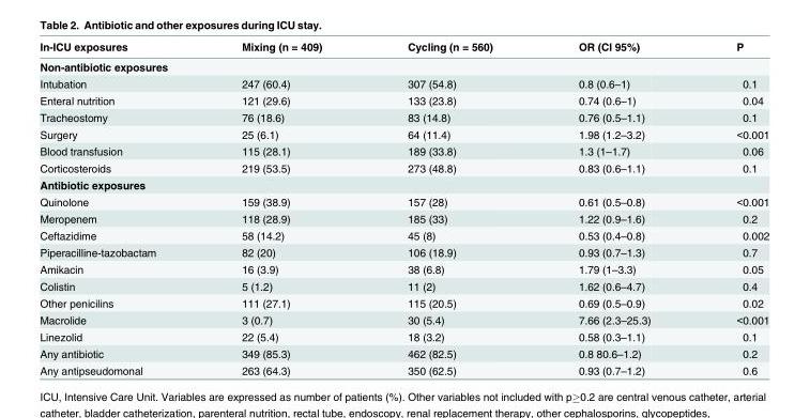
<table><thead><tr><td>In-ICU exposures</td><td>Mixing (n = 409)</td><td>Cycling (n = 560)</td><td>OR (CI 95%)</td><td>P</td></tr></thead><tbody><tr><td colspan="5">Non-antibiotic exposures</td></tr><tr><td>Intubation</td><td>247 (60.4)</td><td>307 (54.8)</td><td>0.8 (0.6–1)</td><td>0.1</td></tr><tr><td>Enteral nutrition</td><td>121 (29.6)</td><td>133 (23.8)</td><td>0.74 (0.6–1)</td><td>0.04</td></tr><tr><td>Tracheostomy</td><td>76 (18.6)</td><td>83 (14.8)</td><td>0.76 (0.5–1.1)</td><td>0.1</td></tr><tr><td>Surgery</td><td>25 (6.1)</td><td>64 (11.4)</td><td>1.98 (1.2–3.2)</td><td>&lt;0.001</td></tr><tr><td>Blood transfusion</td><td>115 (28.1)</td><td>189 (33.8)</td><td>1.3 (1–1.7)</td><td>0.06</td></tr><tr><td>Corticosteroids</td><td>219 (53.5)</td><td>273 (48.8)</td><td>0.83 (0.6–1.1)</td><td>0.1</td></tr><tr><td colspan="5">Antibiotic exposures</td></tr><tr><td>Quinolone</td><td>159 (38.9)</td><td>157 (28)</td><td>0.61 (0.5–0.8)</td><td>&lt;0.001</td></tr><tr><td>Meropenem</td><td>118 (28.9)</td><td>185 (33)</td><td>1.22 (0.9–1.6)</td><td>0.2</td></tr><tr><td>Ceftazidime</td><td>58 (14.2)</td><td>45 (8)</td><td>0.53 (0.4–0.8)</td><td>0.002</td></tr><tr><td>Piperacilline-tazobactam</td><td>82 (20)</td><td>106 (18.9)</td><td>0.93 (0.7–1.3)</td><td>0.7</td></tr><tr><td>Amikacin</td><td>16 (3.9)</td><td>38 (6.8)</td><td>1.79 (1–3.3)</td><td>0.05</td></tr><tr><td>Colistin</td><td>5 (1.2)</td><td>11 (2)</td><td>1.62 (0.6–4.7)</td><td>0.4</td></tr><tr><td>Other penicilins</td><td>111 (27.1)</td><td>115 (20.5)</td><td>0.69 (0.5–0.9)</td><td>0.02</td></tr><tr><td>Macrolide</td><td>3 (0.7)</td><td>30 (5.4)</td><td>7.66 (2.3–25.3)</td><td>&lt;0.001</td></tr><tr><td>Linezolid</td><td>22 (5.4)</td><td>18 (3.2)</td><td>0.58 (0.3–1.1)</td><td>0.1</td></tr><tr><td>Any antibiotic</td><td>349 (85.3)</td><td>462 (82.5)</td><td>0.8 80.6–1.2)</td><td>0.2</td></tr><tr><td>Any antipseudomonal</td><td>263 (64.3)</td><td>350 (62.5)</td><td>0.93 (0.7–1.2)</td><td>0.6</td></tr></tbody></table>